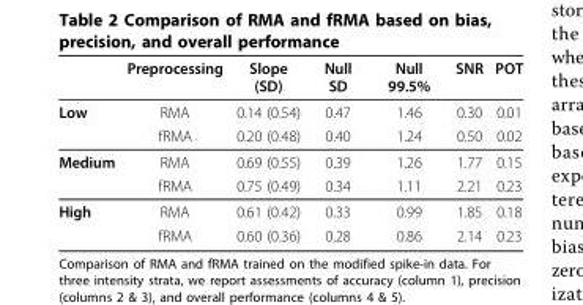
<table><thead><tr><td></td><td>Preprocessing</td><td>Slope (SD)</td><td>Null SD</td><td>Null 99.5%</td><td>SNR</td><td>POT</td></tr></thead><tbody><tr><td rowspan="2">Low</td><td>RMA</td><td>0.14 (0.54)</td><td>0.47</td><td>1.46</td><td>0.30</td><td>0.01</td></tr><tr><td>fRMA</td><td>0.20 (0.48)</td><td>0.40</td><td>1.24</td><td>0.50</td><td>0.02</td></tr><tr><td rowspan="2">Medium</td><td>RMA</td><td>0.69 (0.55)</td><td>0.39</td><td>1.26</td><td>1.77</td><td>0.15</td></tr><tr><td>fRMA</td><td>0.75 (0.49)</td><td>0.34</td><td>1.11</td><td>2.21</td><td>0.23</td></tr><tr><td rowspan="2">High</td><td>RMA</td><td>0.61 (0.42)</td><td>0.33</td><td>0.99</td><td>1.85</td><td>0.18</td></tr><tr><td>fRMA</td><td>0.60 (0.36)</td><td>0.28</td><td>0.86</td><td>2.14</td><td>0.23</td></tr></tbody></table>